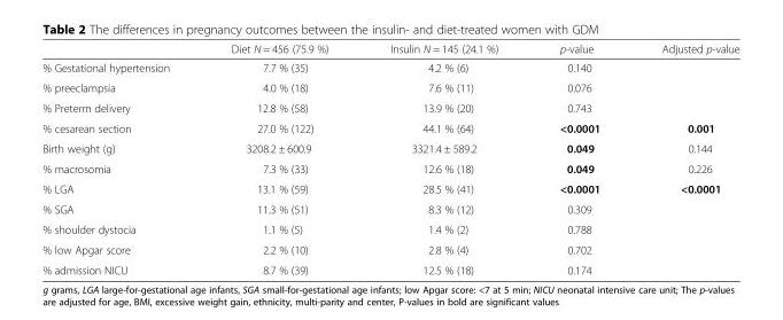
<table><thead><tr><td></td><td>Diet N = 456 (75.9 %)</td><td>Insulin N = 145 (24.1 %)</td><td>p-value</td><td>Adjusted p-value</td></tr></thead><tbody><tr><td>% Gestational hypertension</td><td>7.7 % (35)</td><td>4.2 % (6)</td><td>0.140</td><td></td></tr><tr><td>% preeclampsia</td><td>4.0 % (18)</td><td>7.6 % (11)</td><td>0.076</td><td></td></tr><tr><td>% Preterm delivery</td><td>12.8 % (58)</td><td>13.9 % (20)</td><td>0.743</td><td></td></tr><tr><td>% cesarean section</td><td>27.0 % (122)</td><td>44.1 % (64)</td><td>&lt;0.0001</td><td>0.001</td></tr><tr><td>Birth weight (g)</td><td>3208.2 ± 600.9</td><td>3321.4 ± 589.2</td><td>0.049</td><td>0.144</td></tr><tr><td>% macrosomia</td><td>7.3 % (33)</td><td>12.6 % (18)</td><td>0.049</td><td>0.226</td></tr><tr><td>% LGA</td><td>13.1 % (59)</td><td>28.5 % (41)</td><td>&lt;0.0001</td><td>&lt;0.0001</td></tr><tr><td>% SGA</td><td>11.3 % (51)</td><td>8.3 % (12)</td><td>0.309</td><td></td></tr><tr><td>% shoulder dystocia</td><td>1.1 % (5)</td><td>1.4 % (2)</td><td>0.788</td><td></td></tr><tr><td>% low Apgar score</td><td>2.2 % (10)</td><td>2.8 % (4)</td><td>0.702</td><td></td></tr><tr><td>% admission NICU</td><td>8.7 % (39)</td><td>12.5 % (18)</td><td>0.174</td><td></td></tr></tbody></table>